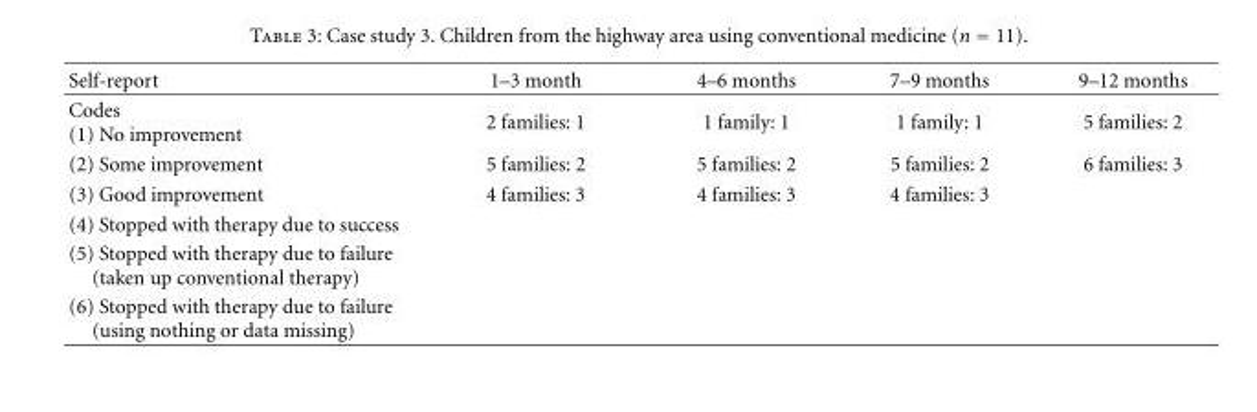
<table><thead><tr><td>Self-report</td><td>1–3 month</td><td>4–6 months</td><td>7–9 months</td><td>9–12 months</td></tr></thead><tbody><tr><td>Codes (1) No improvement</td><td>2 families: 1</td><td>1 family: 1</td><td>1 family: 1</td><td>5 families: 2</td></tr><tr><td>(2) Some improvement</td><td>5 families: 2</td><td>5 families: 2</td><td>5 families: 2</td><td>6 families: 3</td></tr><tr><td>(3) Good improvement</td><td>4 families: 3</td><td>4 families: 3</td><td>4 families: 3</td><td></td></tr><tr><td colspan="5">(4) Stopped with therapy due to success</td></tr><tr><td colspan="5">(5) Stopped with therapy due to failure (taken up conventional therapy)</td></tr><tr><td>(6) Stopped with therapy due to failure (using nothing or data missing)</td><td></td><td></td><td></td><td></td></tr></tbody></table>